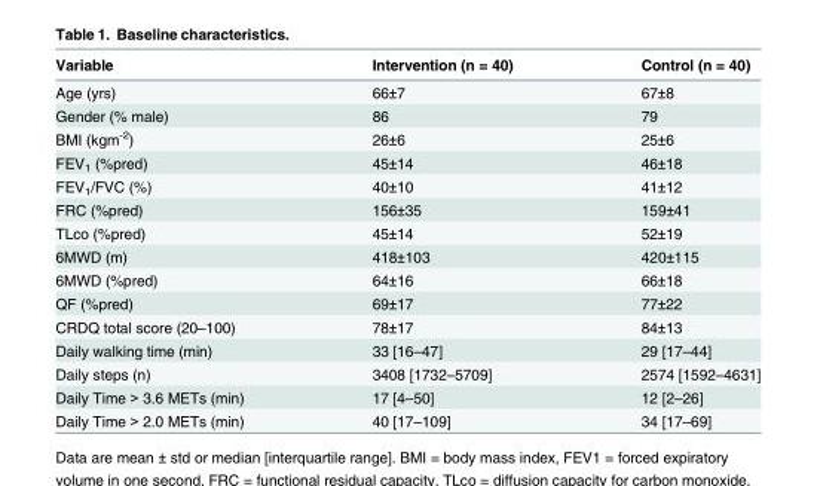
<table><thead><tr><td>Variable</td><td>Intervention (n = 40)</td><td>Control (n = 40)</td></tr></thead><tbody><tr><td>Age (yrs)</td><td>66±7</td><td>67±8</td></tr><tr><td>Gender (% male)</td><td>86</td><td>79</td></tr><tr><td>BMI (kgm<sup>-2</sup>)</td><td>26±6</td><td>25±6</td></tr><tr><td>FEV<sub>1</sub> (%pred)</td><td>45±14</td><td>46±18</td></tr><tr><td>FEV<sub>1</sub>/FVC (%)</td><td>40±10</td><td>41±12</td></tr><tr><td>FRC (%pred)</td><td>156±35</td><td>159±41</td></tr><tr><td>TLco (%pred)</td><td>45±14</td><td>52±19</td></tr><tr><td>6MWD (m)</td><td>418±103</td><td>420±115</td></tr><tr><td>6MWD (%pred)</td><td>64±16</td><td>66±18</td></tr><tr><td>QF (%pred)</td><td>69±17</td><td>77±22</td></tr><tr><td>CRDQ total score (20–100)</td><td>78±17</td><td>84±13</td></tr><tr><td>Daily walking time (min)</td><td>33 [16–47]</td><td>29 [17–44]</td></tr><tr><td>Daily steps (n)</td><td>3408 [1732–5709]</td><td>2574 [1592–4631]</td></tr><tr><td>Daily Time &gt; 3.6 METs (min)</td><td>17 [4–50]</td><td>12 [2–26]</td></tr><tr><td>Daily Time &gt; 2.0 METs (min)</td><td>40 [17–109]</td><td>34 [17–69]</td></tr></tbody></table>